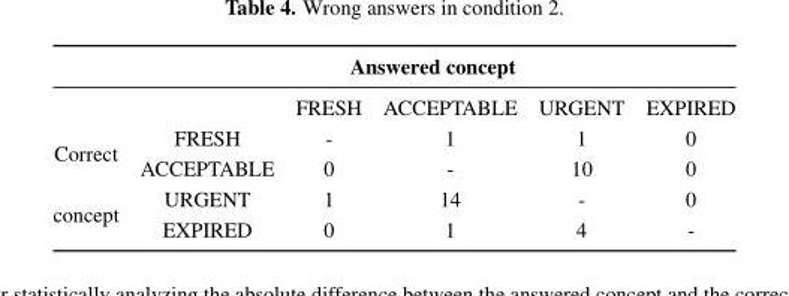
<table><thead><tr><td colspan="6">Answered concept</td></tr><tr><td></td><td></td><td>FRESH</td><td>ACCEPTABLE</td><td>URGENT</td><td>EXPIRED</td></tr></thead><tbody><tr><td rowspan="2">Correct</td><td>FRESH</td><td>-</td><td>1</td><td>1</td><td>0</td></tr><tr><td>ACCEPTABLE</td><td>0</td><td>-</td><td>10</td><td>0</td></tr><tr><td rowspan="2">concept</td><td>URGENT</td><td>1</td><td>14</td><td>-</td><td>0</td></tr><tr><td>EXPIRED</td><td>0</td><td>1</td><td>4</td><td>-</td></tr></tbody></table>